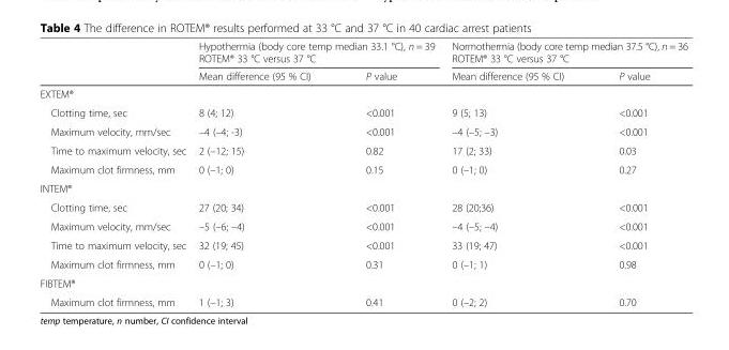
<table><thead><tr><td rowspan="2"></td><td colspan="2">Hypothermia (body core temp median 33.1 °C), n = 39 ROTEM® 33 °C versus 37 °C</td><td colspan="2">Normothermia (body core temp median 37.5 °C), n = 36 ROTEM® 33 °C versus 37 °C</td></tr><tr><td>Mean difference (95 % CI)</td><td>P value</td><td>Mean difference (95 % CI)</td><td>P value</td></tr></thead><tbody><tr><td colspan="5">EXTEM®</td></tr><tr><td>Clotting time, sec</td><td>8 (4; 12)</td><td>&lt;0.001</td><td>9 (5; 13)</td><td>&lt;0.001</td></tr><tr><td>Maximum velocity, mm/sec</td><td>–4 (–4; -3)</td><td>&lt;0.001</td><td>–4 (–5; –3)</td><td>&lt;0.001</td></tr><tr><td>Time to maximum velocity, sec</td><td>2 (–12; 15)</td><td>0.82</td><td>17 (2; 33)</td><td>0.03</td></tr><tr><td>Maximum clot firmness, mm</td><td>0 (–1; 0)</td><td>0.15</td><td>0 (–1; 0)</td><td>0.27</td></tr><tr><td colspan="5">INTEM®</td></tr><tr><td>Clotting time, sec</td><td>27 (20; 34)</td><td>&lt;0.001</td><td>28 (20;36)</td><td>&lt;0.001</td></tr><tr><td>Maximum velocity, mm/sec</td><td>–5 (–6; –4)</td><td>&lt;0.001</td><td>–4 (–5; –4)</td><td>&lt;0.001</td></tr><tr><td>Time to maximum velocity, sec</td><td>32 (19; 45)</td><td>&lt;0.001</td><td>33 (19; 47)</td><td>&lt;0.001</td></tr><tr><td>Maximum clot firmness, mm</td><td>0 (–1; 0)</td><td>0.31</td><td>0 (–1; 1)</td><td>0.98</td></tr><tr><td colspan="5">FIBTEM®</td></tr><tr><td>Maximum clot firmness, mm</td><td>1 (–1; 3)</td><td>0.41</td><td>0 (–2; 2)</td><td>0.70</td></tr></tbody></table>